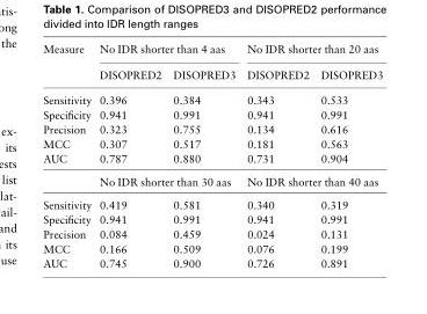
<table><thead><tr><td rowspan="2">Measure</td><td colspan="2">No IDR shorter than 4 aas</td><td colspan="2">No IDR shorter than 20 aas</td></tr><tr><td>DISOPRED2</td><td>DISOPRED3</td><td>DISOPRED2</td><td>DISOPRED3</td></tr></thead><tbody><tr><td>Sensitivity</td><td>0.396</td><td>0.384</td><td>0.343</td><td>0.533</td></tr><tr><td>Specificity</td><td>0.941</td><td>0.991</td><td>0.941</td><td>0.991</td></tr><tr><td>Precision</td><td>0.323</td><td>0.755</td><td>0.134</td><td>0.616</td></tr><tr><td>MCC</td><td>0.307</td><td>0.517</td><td>0.181</td><td>0.563</td></tr><tr><td rowspan="2">AUC</td><td>0.787</td><td>0.880</td><td>0.731</td><td>0.904</td></tr><tr><td colspan="2">No IDR shorter than 30 aas</td><td colspan="2">No IDR shorter than 40 aas</td></tr><tr><td>Sensitivity</td><td>0.419</td><td>0.581</td><td>0.340</td><td>0.319</td></tr><tr><td>Specificity</td><td>0.941</td><td>0.991</td><td>0.941</td><td>0.991</td></tr><tr><td>Precision</td><td>0.084</td><td>0.459</td><td>0.024</td><td>0.131</td></tr><tr><td>MCC</td><td>0.166</td><td>0.509</td><td>0.076</td><td>0.199</td></tr><tr><td>AUC</td><td>0.745</td><td>0.900</td><td>0.726</td><td>0.891</td></tr></tbody></table>